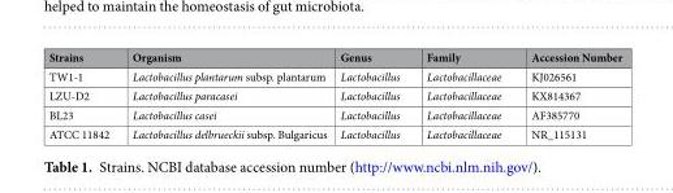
<table><thead><tr><td>Strains</td><td>Organism</td><td>Genus</td><td>Family</td><td>Accession Number</td></tr></thead><tbody><tr><td>TW1-1</td><td>Lactobacillus plantarum subsp. plantarum</td><td>Lactobacillus</td><td>Lactobacillaceae</td><td>KJ026561</td></tr><tr><td>LZU-D2</td><td>Lactobacillus paracasei</td><td>Lactobacillus</td><td>Lactobacillaceae</td><td>KX814367</td></tr><tr><td>BL23</td><td>Lactobacillus casei</td><td>Lactobacillus</td><td>Lactobacillaceae</td><td>AF385770</td></tr><tr><td>ATCC 11842</td><td>Lactobacillus delbrueckii subsp. Bulgaricus</td><td>Lactobacillus</td><td>Lactobacillaceae</td><td>NR_115131</td></tr></tbody></table>